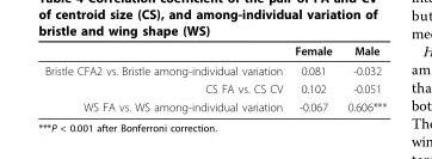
<table><thead><tr><td></td><td>Female</td><td>Male</td></tr></thead><tbody><tr><td>Bristle CFA2 vs. Bristle among-individual variation</td><td>0.081</td><td>-0.032</td></tr><tr><td>CS FA vs. CS CV</td><td>0.102</td><td>-0.051</td></tr><tr><td>WS FA vs. WS among-individual variation</td><td>-0.067</td><td>0.606***</td></tr></tbody></table>